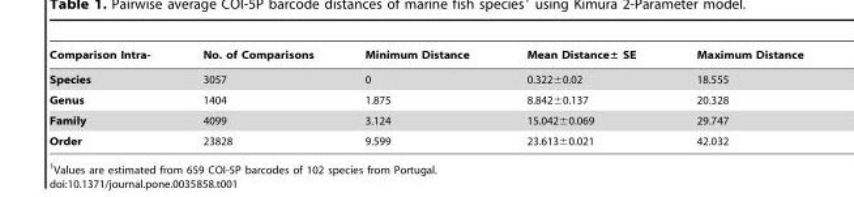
<table><thead><tr><td>Comparison Intra-</td><td>No. of Comparisons</td><td>Minimum Distance</td><td>Mean Distance± SE</td><td>Maximum Distance</td></tr></thead><tbody><tr><td>Species</td><td>3057</td><td>0</td><td>0.322±0.02</td><td>18.555</td></tr><tr><td>Genus</td><td>1404</td><td>1.875</td><td>8.842±0.137</td><td>20.328</td></tr><tr><td>Family</td><td>4099</td><td>3.124</td><td>15.042±0.069</td><td>29.747</td></tr><tr><td>Order</td><td>23828</td><td>9.599</td><td>23.613±0.021</td><td>42.032</td></tr></tbody></table>